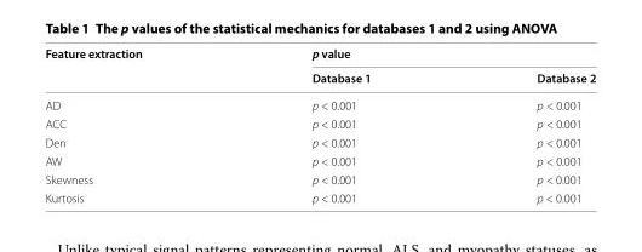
<table><thead><tr><td rowspan="2">Feature extraction</td><td colspan="2">p value</td></tr><tr><td>Database 1</td><td>Database 2</td></tr></thead><tbody><tr><td>AD</td><td>p &lt; 0.001</td><td>p &lt; 0.001</td></tr><tr><td>ACC</td><td>p &lt; 0.001</td><td>p &lt; 0.001</td></tr><tr><td>Den</td><td>p &lt; 0.001</td><td>p &lt; 0.001</td></tr><tr><td>AW</td><td>p &lt; 0.001</td><td>p &lt; 0.001</td></tr><tr><td>Skewness</td><td>p &lt; 0.001</td><td>p &lt; 0.001</td></tr><tr><td>Kurtosis</td><td>p &lt; 0.001</td><td>p &lt; 0.001</td></tr></tbody></table>